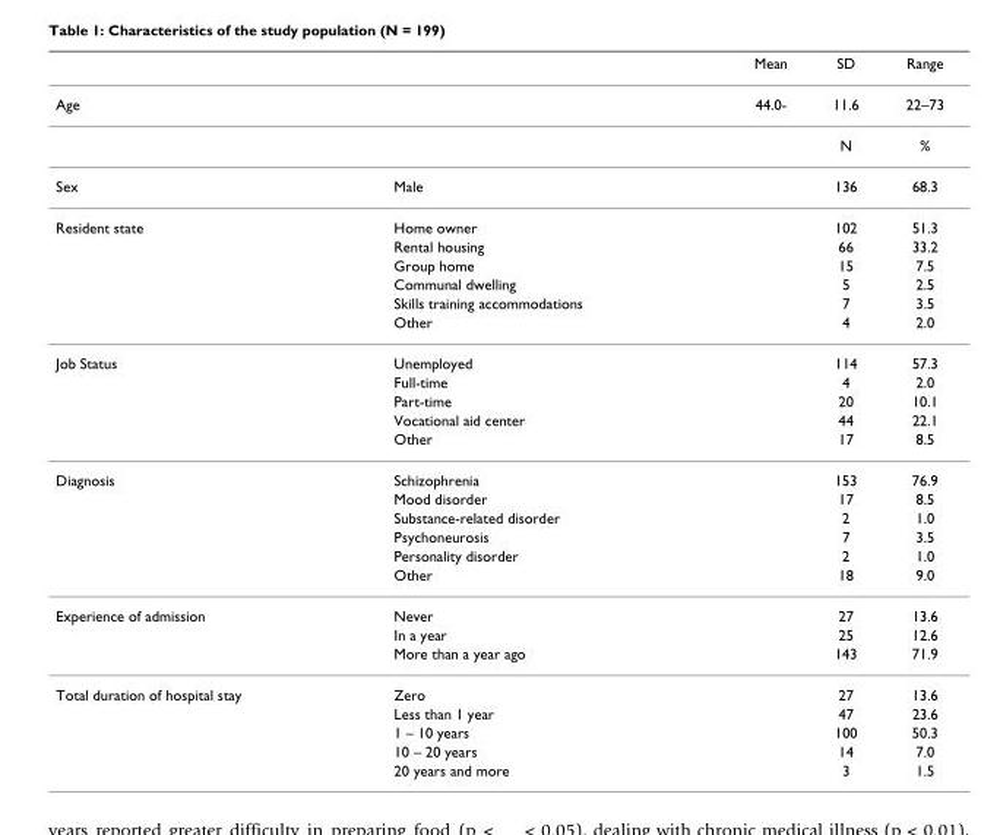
<table><thead><tr><td></td><td></td><td>Mean</td><td>SD</td><td>Range</td></tr></thead><tbody><tr><td rowspan="2">Age</td><td></td><td>44.0-</td><td>11.6</td><td>22–73</td></tr><tr><td></td><td></td><td>N</td><td>%</td></tr><tr><td>Sex</td><td>Male</td><td></td><td>136</td><td>68.3</td></tr><tr><td rowspan="6">Resident state</td><td>Home owner</td><td></td><td>102</td><td>51.3</td></tr><tr><td>Rental housing</td><td></td><td>66</td><td>33.2</td></tr><tr><td>Group home</td><td></td><td>15</td><td>7.5</td></tr><tr><td>Communal dwelling</td><td></td><td>5</td><td>2.5</td></tr><tr><td>Skills training accommodations</td><td></td><td>7</td><td>3.5</td></tr><tr><td>Other</td><td></td><td>4</td><td>2.0</td></tr><tr><td rowspan="5">Job Status</td><td>Unemployed</td><td></td><td>114</td><td>57.3</td></tr><tr><td>Full-time</td><td></td><td>4</td><td>2.0</td></tr><tr><td>Part-time</td><td></td><td>20</td><td>10.1</td></tr><tr><td>Vocational aid center</td><td></td><td>44</td><td>22.1</td></tr><tr><td>Other</td><td></td><td>17</td><td>8.5</td></tr><tr><td rowspan="6">Diagnosis</td><td>Schizophrenia</td><td></td><td>153</td><td>76.9</td></tr><tr><td>Mood disorder</td><td></td><td>17</td><td>8.5</td></tr><tr><td>Substance-related disorder</td><td></td><td>2</td><td>1.0</td></tr><tr><td>Psychoneurosis</td><td></td><td>7</td><td>3.5</td></tr><tr><td>Personality disorder</td><td></td><td>2</td><td>1.0</td></tr><tr><td>Other</td><td></td><td>18</td><td>9.0</td></tr><tr><td rowspan="3">Experience of admission</td><td>Never</td><td></td><td>27</td><td>13.6</td></tr><tr><td>In a year</td><td></td><td>25</td><td>12.6</td></tr><tr><td>More than a year ago</td><td></td><td>143</td><td>71.9</td></tr><tr><td rowspan="5">Total duration of hospital stay</td><td>Zero</td><td></td><td>27</td><td>13.6</td></tr><tr><td>Less than 1 year</td><td></td><td>47</td><td>23.6</td></tr><tr><td>1 – 10 years</td><td></td><td>100</td><td>50.3</td></tr><tr><td>10 – 20 years</td><td></td><td>14</td><td>7.0</td></tr><tr><td>20 years and more</td><td></td><td>3</td><td>1.5</td></tr></tbody></table>